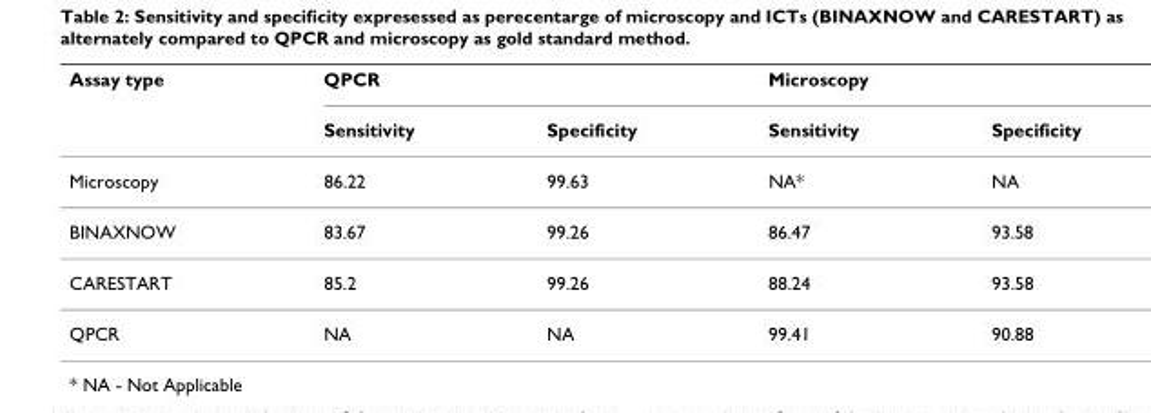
<table><thead><tr><td rowspan="2">Assay type</td><td colspan="2">QPCR</td><td colspan="2">Microscopy</td></tr><tr><td>Sensitivity</td><td>Specificity</td><td>Sensitivity</td><td>Specificity</td></tr></thead><tbody><tr><td>Microscopy</td><td>86.22</td><td>99.63</td><td>NA*</td><td>NA</td></tr><tr><td>BINAXNOW</td><td>83.67</td><td>99.26</td><td>86.47</td><td>93.58</td></tr><tr><td>CARESTART</td><td>85.2</td><td>99.26</td><td>88.24</td><td>93.58</td></tr><tr><td>QPCR</td><td>NA</td><td>NA</td><td>99.41</td><td>90.88</td></tr></tbody></table>